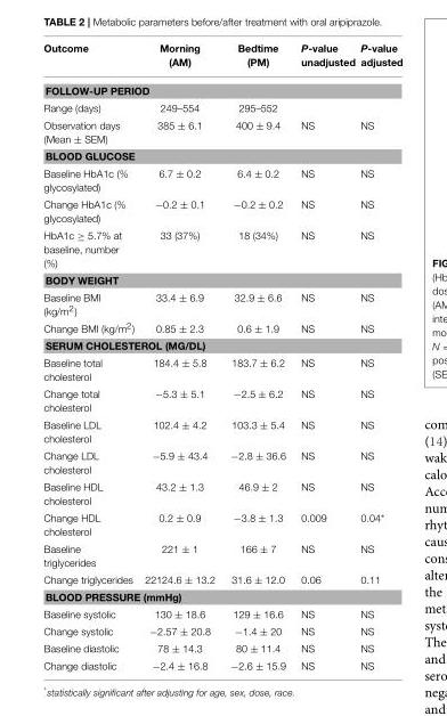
<table><thead><tr><td>Outcome</td><td>Morning (AM)</td><td>Bedtime (PM)</td><td>P-value unadjusted</td><td>P-value adjusted</td></tr></thead><tbody><tr><td colspan="5">FOLLOW-UP PERIOD</td></tr><tr><td>Range (days)</td><td>249–554</td><td>295–552</td><td></td><td></td></tr><tr><td>Observation days (Mean ± SEM)</td><td>385 ± 6.1</td><td>400 ± 9.4</td><td>NS</td><td>NS</td></tr><tr><td colspan="5">BLOOD GLUCOSE</td></tr><tr><td>Baseline HbA1c (% glycosylated)</td><td>6.7 ± 0.2</td><td>6.4 ± 0.2</td><td>NS</td><td>NS</td></tr><tr><td>Change HbA1c (% glycosylated)</td><td>−0.2 ± 0.1</td><td>−0.2 ± 0.2</td><td>NS</td><td>NS</td></tr><tr><td>HbA1c ≥ 5.7% at baseline, number (%)</td><td>33 (37%)</td><td>18 (34%)</td><td>NS</td><td>NS</td></tr><tr><td colspan="5">BODY WEIGHT</td></tr><tr><td>Baseline BMI (kg/m<sup>2</sup>)</td><td>33.4 ± 6.9</td><td>32.9 ± 6.6</td><td>NS</td><td>NS</td></tr><tr><td>Change BMI (kg/m<sup>2</sup>)</td><td>0.85 ± 2.3</td><td>0.6 ± 1.9</td><td>NS</td><td>NS</td></tr><tr><td colspan="5">SERUM CHOLESTEROL (MG/DL)</td></tr><tr><td>Baseline total cholesterol</td><td>184.4 ± 5.8</td><td>183.7 ± 6.2</td><td>NS</td><td>NS</td></tr><tr><td>Change total cholesterol</td><td>−5.3 ± 5.1</td><td>−2.5 ± 6.2</td><td>NS</td><td>NS</td></tr><tr><td>Baseline LDL cholesterol</td><td>102.4 ± 4.2</td><td>103.3 ± 5.4</td><td>NS</td><td>NS</td></tr><tr><td>Change LDL cholesterol</td><td>−5.9 ± 43.4</td><td>−2.8 ± 36.6</td><td>NS</td><td>NS</td></tr><tr><td>Baseline HDL cholesterol</td><td>43.2 ± 1.3</td><td>46.9 ± 2</td><td>NS</td><td>NS</td></tr><tr><td>Change HDL cholesterol</td><td>0.2 ± 0.9</td><td>−3.8 ± 1.3</td><td>0.009</td><td>0.04*</td></tr><tr><td>Baseline triglycerides</td><td>221 ± 1</td><td>166 ± 7</td><td>NS</td><td>NS</td></tr><tr><td>Change triglycerides</td><td>22124.6 ± 13.2</td><td>31.6 ± 12.0</td><td>0.06</td><td>0.11</td></tr><tr><td colspan="5">BLOOD PRESSURE (mmHg)</td></tr><tr><td>Baseline systolic</td><td>130 ± 18.6</td><td>129 ± 16.6</td><td>NS</td><td>NS</td></tr><tr><td>Change systolic</td><td>−2.57 ± 20.8</td><td>−1.4 ± 20</td><td>NS</td><td>NS</td></tr><tr><td>Baseline diastolic</td><td>78 ± 14.3</td><td>80 ± 11.4</td><td>NS</td><td>NS</td></tr><tr><td>Change diastolic</td><td>−2.4 ± 16.8</td><td>−2.6 ± 15.9</td><td>NS</td><td>NS</td></tr></tbody></table>